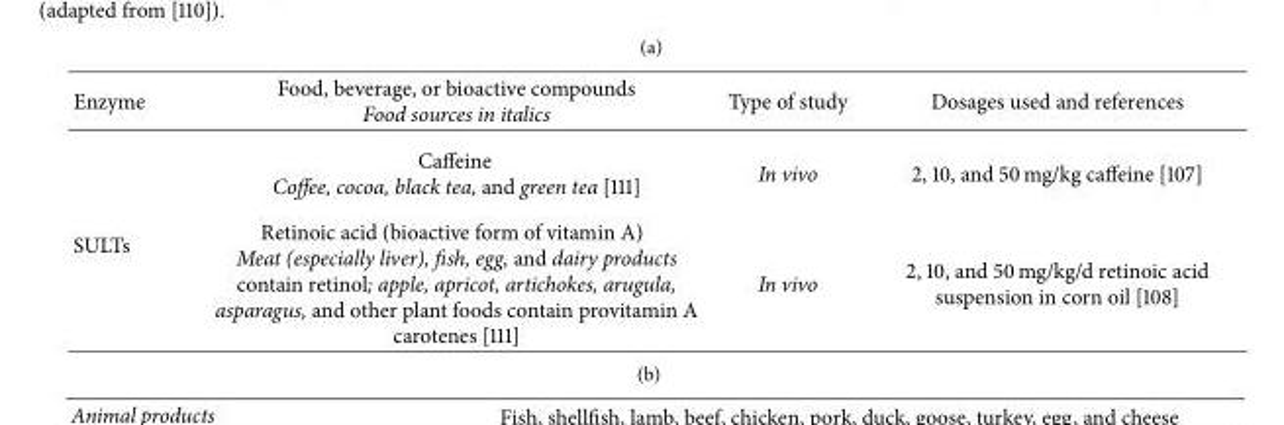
<table><thead><tr><td>Enzyme</td><td>Food, beverage, or bioactive compounds Food sources in italics</td><td>Type of study</td><td>Dosages used and references</td></tr></thead><tbody><tr><td rowspan="2">SULTs</td><td>Caffeine Coffee, cocoa, black tea, and green tea [111]</td><td>In vivo</td><td>2, 10, and 50 mg/kg caffeine [107]</td></tr><tr><td>Retinoic acid (bioactive form of vitamin A) Meat (especially liver), fish, egg, and dairy products contain retinol; apple, apricot, artichokes, arugula, asparagus, and other plant foods contain provitamin A carotenes [111]</td><td>In vivo</td><td>2, 10, and 50 mg/kg/d retinoic acid suspension in corn oil [108]</td></tr></tbody></table>